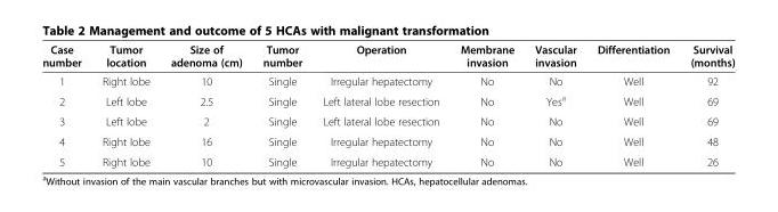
<table><thead><tr><td>Case number</td><td>Tumor location</td><td>Size of adenoma (cm)</td><td>Tumor number</td><td>Operation</td><td>Membrane invasion</td><td>Vascular invasion</td><td>Differentiation</td><td>Survival (months)</td></tr></thead><tbody><tr><td>1</td><td>Right lobe</td><td>10</td><td>Single</td><td>Irregular hepatectomy</td><td>No</td><td>No</td><td>Well</td><td>92</td></tr><tr><td>2</td><td>Left lobe</td><td>2.5</td><td>Single</td><td>Left lateral lobe resection</td><td>No</td><td>Yes<sup>a</sup></td><td>Well</td><td>69</td></tr><tr><td>3</td><td>Left lobe</td><td>2</td><td>Single</td><td>Left lateral lobe resection</td><td>No</td><td>No</td><td>Well</td><td>69</td></tr><tr><td>4</td><td>Right lobe</td><td>16</td><td>Single</td><td>Irregular hepatectomy</td><td>No</td><td>No</td><td>Well</td><td>48</td></tr><tr><td>5</td><td>Right lobe</td><td>10</td><td>Single</td><td>Irregular hepatectomy</td><td>No</td><td>No</td><td>Well</td><td>26</td></tr></tbody></table>